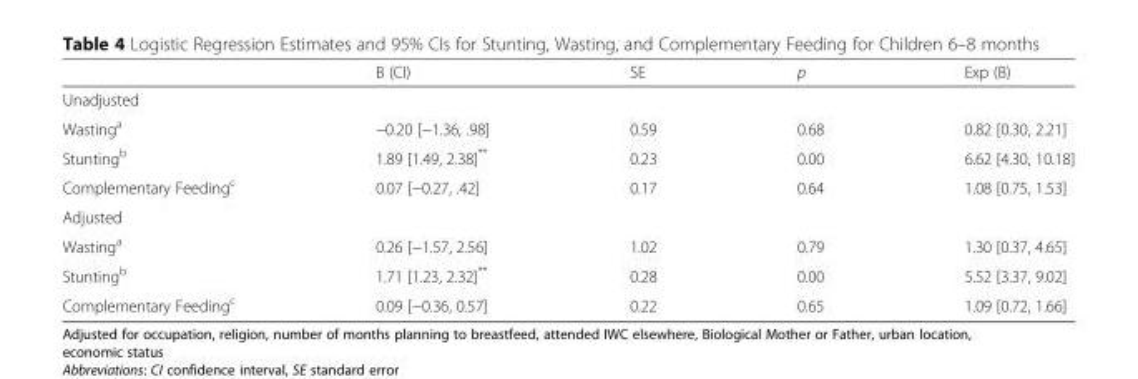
<table><thead><tr><td></td><td>B (CI)</td><td>SE</td><td>p</td><td>Exp (B)</td></tr></thead><tbody><tr><td colspan="5">Unadjusted</td></tr><tr><td>Wasting<sup>a</sup></td><td>−0.20 [−1.36, .98]</td><td>0.59</td><td>0.68</td><td>0.82 [0.30, 2.21]</td></tr><tr><td>Stunting<sup>b</sup></td><td>1.89 [1.49, 2.38]**</td><td>0.23</td><td>0.00</td><td>6.62 [4.30, 10.18]</td></tr><tr><td>Complementary Feeding<sup>c</sup></td><td>0.07 [−0.27, .42]</td><td>0.17</td><td>0.64</td><td>1.08 [0.75, 1.53]</td></tr><tr><td colspan="5">Adjusted</td></tr><tr><td>Wasting<sup>a</sup></td><td>0.26 [−1.57, 2.56]</td><td>1.02</td><td>0.79</td><td>1.30 [0.37, 4.65]</td></tr><tr><td>Stunting<sup>b</sup></td><td>1.71 [1.23, 2.32]**</td><td>0.28</td><td>0.00</td><td>5.52 [3.37, 9.02]</td></tr><tr><td>Complementary Feeding<sup>c</sup></td><td>0.09 [−0.36, 0.57]</td><td>0.22</td><td>0.65</td><td>1.09 [0.72, 1.66]</td></tr></tbody></table>